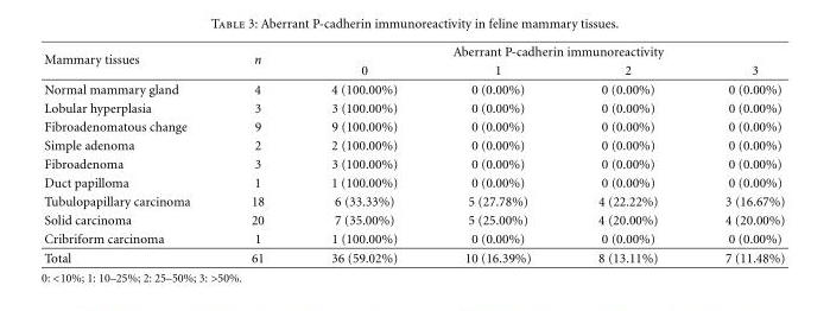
<table><thead><tr><td rowspan="2">Mammary tissues</td><td rowspan="2">n</td><td colspan="4">Aberrant P-cadherin immunoreactivity</td></tr><tr><td>0</td><td>1</td><td>2</td><td>3</td></tr></thead><tbody><tr><td>Normal mammary gland</td><td>4</td><td>4 (100.00%)</td><td>0 (0.00%)</td><td>0 (0.00%)</td><td>0 (0.00%)</td></tr><tr><td>Lobular hyperplasia</td><td>3</td><td>3 (100.00%)</td><td>0 (0.00%)</td><td>0 (0.00%)</td><td>0 (0.00%)</td></tr><tr><td>Fibroadenomatous change</td><td>9</td><td>9 (100.00%)</td><td>0 (0.00%)</td><td>0 (0.00%)</td><td>0 (0.00%)</td></tr><tr><td>Simple adenoma</td><td>2</td><td>2 (100.00%)</td><td>0 (0.00%)</td><td>0 (0.00%)</td><td>0 (0.00%)</td></tr><tr><td>Fibroadenoma</td><td>3</td><td>3 (100.00%)</td><td>0 (0.00%)</td><td>0 (0.00%)</td><td>0 (0.00%)</td></tr><tr><td>Duct papilloma</td><td>1</td><td>1 (100.00%)</td><td>0 (0.00%)</td><td>0 (0.00%)</td><td>0 (0.00%)</td></tr><tr><td>Tubulopapillary carcinoma</td><td>18</td><td>6 (33.33%)</td><td>5 (27.78%)</td><td>4 (22.22%)</td><td>3 (16.67%)</td></tr><tr><td>Solid carcinoma</td><td>20</td><td>7 (35.00%)</td><td>5 (25.00%)</td><td>4 (20.00%)</td><td>4 (20.00%)</td></tr><tr><td>Cribriform carcinoma</td><td>1</td><td>1 (100.00%)</td><td>0 (0.00%)</td><td>0 (0.00%)</td><td>0 (0.00%)</td></tr><tr><td>Total</td><td>61</td><td>36 (59.02%)</td><td>10 (16.39%)</td><td>8 (13.11%)</td><td>7 (11.48%)</td></tr></tbody></table>